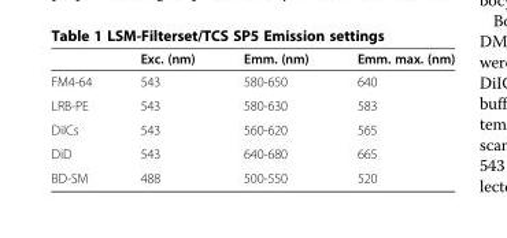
<table><thead><tr><td></td><td>Exc. (nm)</td><td>Emm. (nm)</td><td>Emm. max. (nm)</td></tr></thead><tbody><tr><td>FM4-64</td><td>543</td><td>580-650</td><td>640</td></tr><tr><td>LRB-PE</td><td>543</td><td>580-630</td><td>583</td></tr><tr><td>DiICs</td><td>543</td><td>560-620</td><td>565</td></tr><tr><td>DiD</td><td>543</td><td>640-680</td><td>665</td></tr><tr><td>BD-SM</td><td>488</td><td>500-550</td><td>520</td></tr></tbody></table>